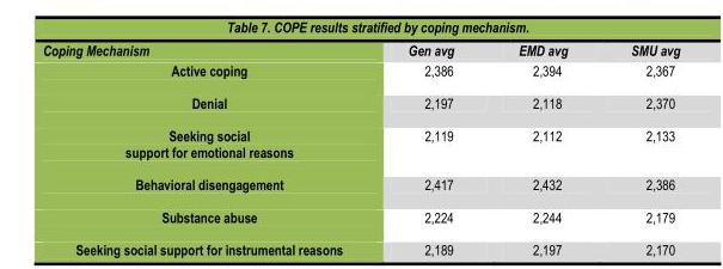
<table><tbody><tr><td>Coping Mechanism</td><td>Gen avg</td><td>EMD avg</td><td>SMU avg</td></tr><tr><td>Active coping</td><td>2,386</td><td>2,394</td><td>2,367</td></tr><tr><td>Denial</td><td>2,197</td><td>2,118</td><td>2,370</td></tr><tr><td>Seeking social support for emotional reasons</td><td>2,119</td><td>2,112</td><td>2,133</td></tr><tr><td>Behavioral disengagement</td><td>2,417</td><td>2,432</td><td>2,386</td></tr><tr><td>Substance abuse</td><td>2,224</td><td>2,244</td><td>2,179</td></tr></tbody></table>